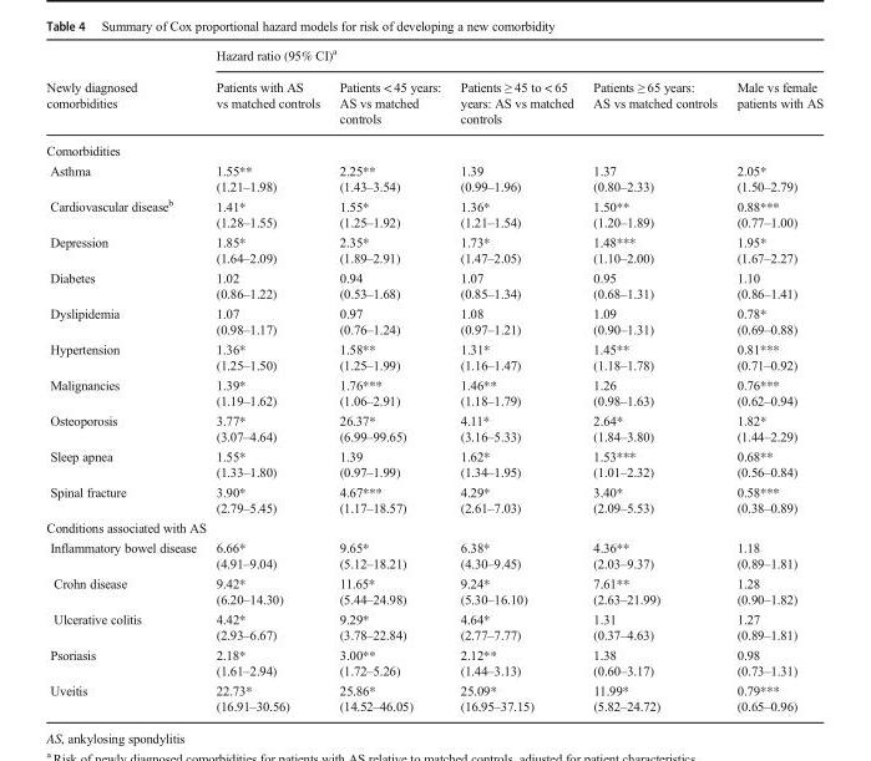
<table><thead><tr><td rowspan="2">Newly diagnosed comorbidities</td><td colspan="5">Hazard ratio (95% CI)<sup>a</sup></td></tr><tr><td>Patients with AS vs matched controls</td><td>Patients &lt; 45 years: AS vs matched controls</td><td>Patients ≥ 45 to &lt; 65 years: AS vs matched controls</td><td>Patients ≥ 65 years: AS vs matched controls</td><td>Male vs female patients with AS</td></tr></thead><tbody><tr><td colspan="6">Comorbidities</td></tr><tr><td>Asthma</td><td>1.55** (1.21–1.98)</td><td>2.25** (1.43–3.54)</td><td>1.39 (0.99–1.96)</td><td>1.37 (0.80–2.33)</td><td>2.05* (1.50–2.79)</td></tr><tr><td>Cardiovascular disease<sup>b</sup></td><td>1.41* (1.28–1.55)</td><td>1.55* (1.25–1.92)</td><td>1.36* (1.21–1.54)</td><td>1.50** (1.20–1.89)</td><td>0.88*** (0.77–1.00)</td></tr><tr><td>Depression</td><td>1.85* (1.64–2.09)</td><td>2.35* (1.89–2.91)</td><td>1.73* (1.47–2.05)</td><td>1.48*** (1.10–2.00)</td><td>1.95* (1.67–2.27)</td></tr><tr><td>Diabetes</td><td>1.02 (0.86–1.22)</td><td>0.94 (0.53–1.68)</td><td>1.07 (0.85–1.34)</td><td>0.95 (0.68–1.31)</td><td>1.10 (0.86–1.41)</td></tr><tr><td>Dyslipidemia</td><td>1.07 (0.98–1.17)</td><td>0.97 (0.76–1.24)</td><td>1.08 (0.97–1.21)</td><td>1.09 (0.90–1.31)</td><td>0.78* (0.69–0.88)</td></tr><tr><td>Hypertension</td><td>1.36* (1.25–1.50)</td><td>1.58** (1.25–1.99)</td><td>1.31* (1.16–1.47)</td><td>1.45** (1.18–1.78)</td><td>0.81*** (0.71–0.92)</td></tr><tr><td>Malignancies</td><td>1.39* (1.19–1.62)</td><td>1.76*** (1.06–2.91)</td><td>1.46** (1.18–1.79)</td><td>1.26 (0.98–1.63)</td><td>0.76*** (0.62–0.94)</td></tr><tr><td>Osteoporosis</td><td>3.77* (3.07–4.64)</td><td>26.37* (6.99–99.65)</td><td>4.11* (3.16–5.33)</td><td>2.64* (1.84–3.80)</td><td>1.82* (1.44–2.29)</td></tr><tr><td>Sleep apnea</td><td>1.55* (1.33–1.80)</td><td>1.39 (0.97–1.99)</td><td>1.62* (1.34–1.95)</td><td>1.53*** (1.01–2.32)</td><td>0.68** (0.56–0.84)</td></tr><tr><td>Spinal fracture</td><td>3.90* (2.79–5.45)</td><td>4.67*** (1.17–18.57)</td><td>4.29* (2.61–7.03)</td><td>3.40* (2.09–5.53)</td><td>0.58*** (0.38–0.89)</td></tr><tr><td colspan="6">Conditions associated with AS</td></tr><tr><td>Inflammatory bowel disease</td><td>6.66* (4.91–9.04)</td><td>9.65* (5.12–18.21)</td><td>6.38* (4.30–9.45)</td><td>4.36** (2.03–9.37)</td><td>1.18 (0.89–1.81)</td></tr><tr><td>Crohn disease</td><td>9.42* (6.20–14.30)</td><td>11.65* (5.44–24.98)</td><td>9.24* (5.30–16.10)</td><td>7.61** (2.63–21.99)</td><td>1.28 (0.90–1.82)</td></tr><tr><td>Ulcerative colitis</td><td>4.42* (2.93–6.67)</td><td>9.29* (3.78–22.84)</td><td>4.64* (2.77–7.77)</td><td>1.31 (0.37–4.63)</td><td>1.27 (0.89–1.81)</td></tr><tr><td>Psoriasis</td><td>2.18* (1.61–2.94)</td><td>3.00** (1.72–5.26)</td><td>2.12** (1.44–3.13)</td><td>1.38 (0.60–3.17)</td><td>0.98 (0.73–1.31)</td></tr><tr><td>Uveitis</td><td>22.73* (16.91–30.56)</td><td>25.86* (14.52–46.05)</td><td>25.09* (16.95–37.15)</td><td>11.99* (5.82–24.72)</td><td>0.79*** (0.65–0.96)</td></tr></tbody></table>